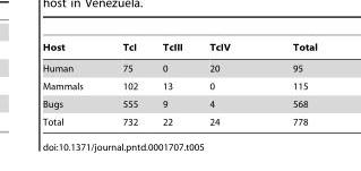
<table><thead><tr><td>Host</td><td>TcI</td><td>TcIII</td><td>TcIV</td><td>Total</td></tr></thead><tbody><tr><td>Human</td><td>75</td><td>0</td><td>20</td><td>95</td></tr><tr><td>Mammals</td><td>102</td><td>13</td><td>0</td><td>115</td></tr><tr><td>Bugs</td><td>555</td><td>9</td><td>4</td><td>568</td></tr><tr><td>Total</td><td>732</td><td>22</td><td>24</td><td>778</td></tr></tbody></table>